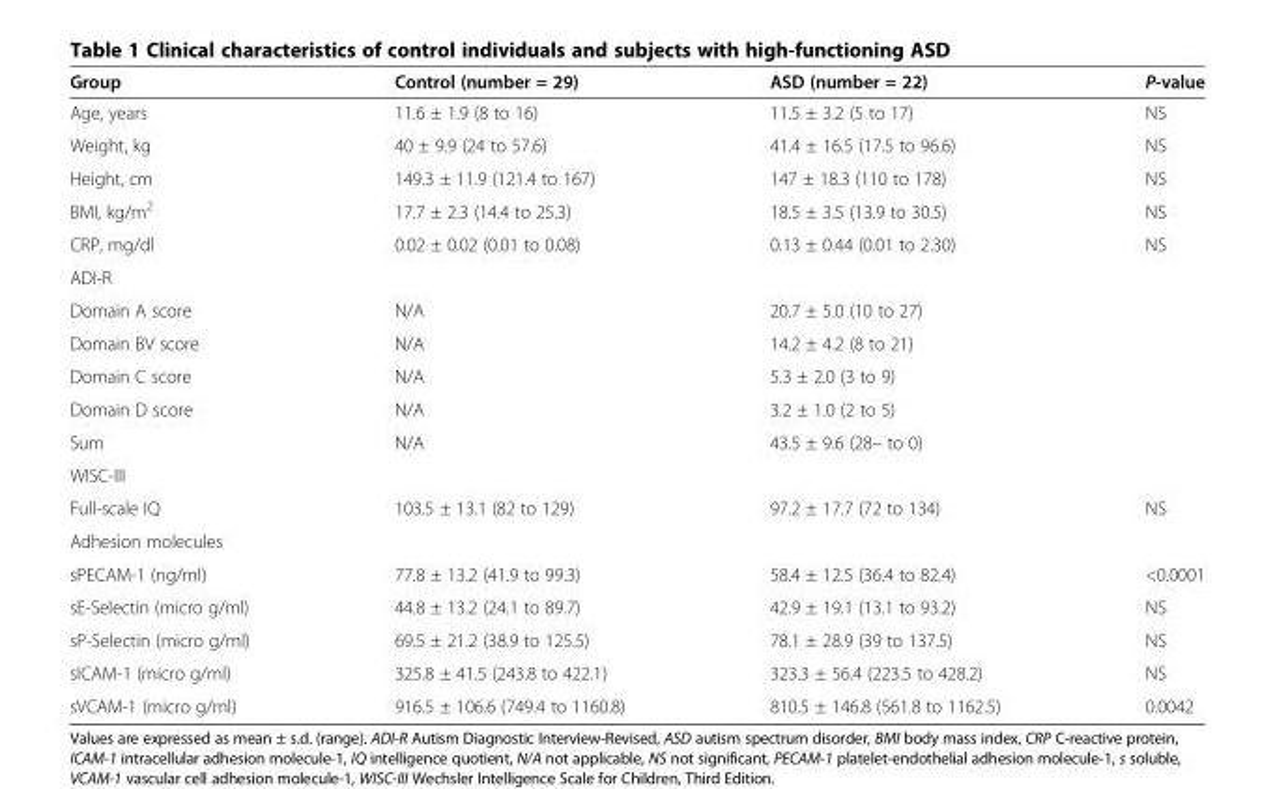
<table><thead><tr><td>Group</td><td>Control (number = 29)</td><td>ASD (number = 22)</td><td>P-value</td></tr></thead><tbody><tr><td>Age, years</td><td>11.6 ± 1.9 (8 to 16)</td><td>11.5 ± 3.2 (5 to 17)</td><td>NS</td></tr><tr><td>Weight, kg</td><td>40 ± 9.9 (24 to 57.6)</td><td>41.4 ± 16.5 (17.5 to 96.6)</td><td>NS</td></tr><tr><td>Height, cm</td><td>149.3 ± 11.9 (121.4 to 167)</td><td>147 ± 18.3 (110 to 178)</td><td>NS</td></tr><tr><td>BMI, kg/m<sup>2</sup></td><td>17.7 ± 2.3 (14.4 to 25.3)</td><td>18.5 ± 3.5 (13.9 to 30.5)</td><td>NS</td></tr><tr><td>CRP, mg/dl</td><td rowspan="2">0.02 ± 0.02 (0.01 to 0.08)</td><td rowspan="2">0.13 ± 0.44 (0.01 to 2.30)</td><td rowspan="2">NS</td></tr><tr><td>ADI-R</td></tr><tr><td>Domain A score</td><td>N/A</td><td>20.7 ± 5.0 (10 to 27)</td><td></td></tr><tr><td>Domain BV score</td><td>N/A</td><td>14.2 ± 4.2 (8 to 21)</td><td></td></tr><tr><td>Domain C score</td><td>N/A</td><td>5.3 ± 2.0 (3 to 9)</td><td></td></tr><tr><td>Domain D score</td><td>N/A</td><td>3.2 ± 1.0 (2 to 5)</td><td></td></tr><tr><td>Sum</td><td>N/A</td><td>43.5 ± 9.6 (28– to 0)</td><td></td></tr><tr><td colspan="4">WISC-III</td></tr><tr><td>Full-scale IQ</td><td>103.5 ± 13.1 (82 to 129)</td><td>97.2 ± 17.7 (72 to 134)</td><td>NS</td></tr><tr><td colspan="4">Adhesion molecules</td></tr><tr><td>sPECAM-1 (ng/ml)</td><td>77.8 ± 13.2 (41.9 to 99.3)</td><td>58.4 ± 12.5 (36.4 to 82.4)</td><td>&lt;0.0001</td></tr><tr><td>sE-Selectin (micro g/ml)</td><td>44.8 ± 13.2 (24.1 to 89.7)</td><td>42.9 ± 19.1 (13.1 to 93.2)</td><td>NS</td></tr><tr><td>sP-Selectin (micro g/ml)</td><td>69.5 ± 21.2 (38.9 to 125.5)</td><td>78.1 ± 28.9 (39 to 137.5)</td><td>NS</td></tr><tr><td>sICAM-1 (micro g/ml)</td><td>325.8 ± 41.5 (243.8 to 422.1)</td><td>323.3 ± 56.4 (223.5 to 428.2)</td><td>NS</td></tr><tr><td>sVCAM-1 (micro g/ml)</td><td>916.5 ± 106.6 (749.4 to 1160.8)</td><td>810.5 ± 146.8 (561.8 to 1162.5)</td><td>0.0042</td></tr></tbody></table>